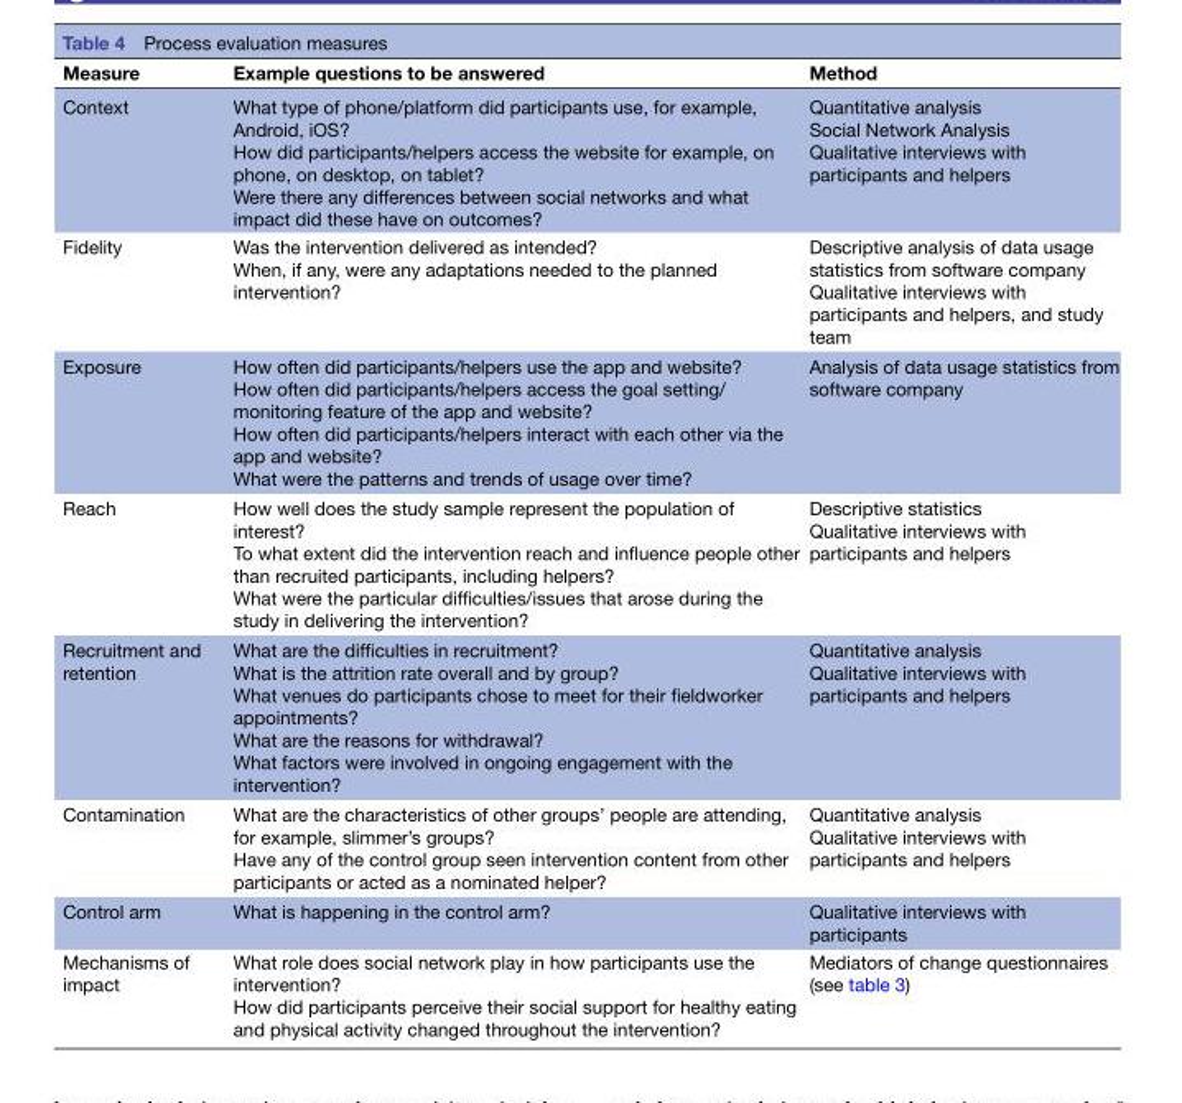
<table><thead><tr><td>Measure</td><td>Example questions to be answered</td><td>Method</td></tr></thead><tbody><tr><td>Context</td><td>What type of phone/platform did participants use, for example, Android, iOS? How did participants/helpers access the website for example, on phone, on desktop, on tablet? Were there any differences between social networks and what impact did these have on outcomes?</td><td>Quantitative analysis Social Network Analysis Qualitative interviews with participants and helpers</td></tr><tr><td>Fidelity</td><td>Was the intervention delivered as intended? When, if any, were any adaptations needed to the planned intervention?</td><td>Descriptive analysis of data usage statistics from software company Qualitative interviews with participants and helpers, and study team</td></tr><tr><td>Exposure</td><td>How often did participants/helpers use the app and website? How often did participants/helpers access the goal setting/ monitoring feature of the app and website? How often did participants/helpers interact with each other via the app and website? What were the patterns and trends of usage over time?</td><td>Analysis of data usage statistics from software company</td></tr><tr><td>Reach</td><td>How well does the study sample represent the population of interest? To what extent did the intervention reach and influence people other than recruited participants, including helpers? What were the particular difficulties/issues that arose during the study in delivering the intervention?</td><td>Descriptive statistics Qualitative interviews with participants and helpers</td></tr><tr><td>Recruitment and retention</td><td>What are the difficulties in recruitment? What is the attrition rate overall and by group? What venues do participants chose to meet for their fieldworker appointments? What are the reasons for withdrawal? What factors were involved in ongoing engagement with the intervention?</td><td>Quantitative analysis Qualitative interviews with participants and helpers</td></tr><tr><td>Contamination</td><td>What are the characteristics of other groups’ people are attending, for example, slimmer’s groups? Have any of the control group seen intervention content from other participants or acted as a nominated helper?</td><td>Quantitative analysis Qualitative interviews with participants and helpers</td></tr><tr><td>Control arm</td><td>What is happening in the control arm?</td><td>Qualitative interviews with participants</td></tr><tr><td>Mechanisms of impact</td><td>What role does social network play in how participants use the intervention? How did participants perceive their social support for healthy eating and physical activity changed throughout the intervention?</td><td>Mediators of change questionnaires (see table 3)</td></tr></tbody></table>